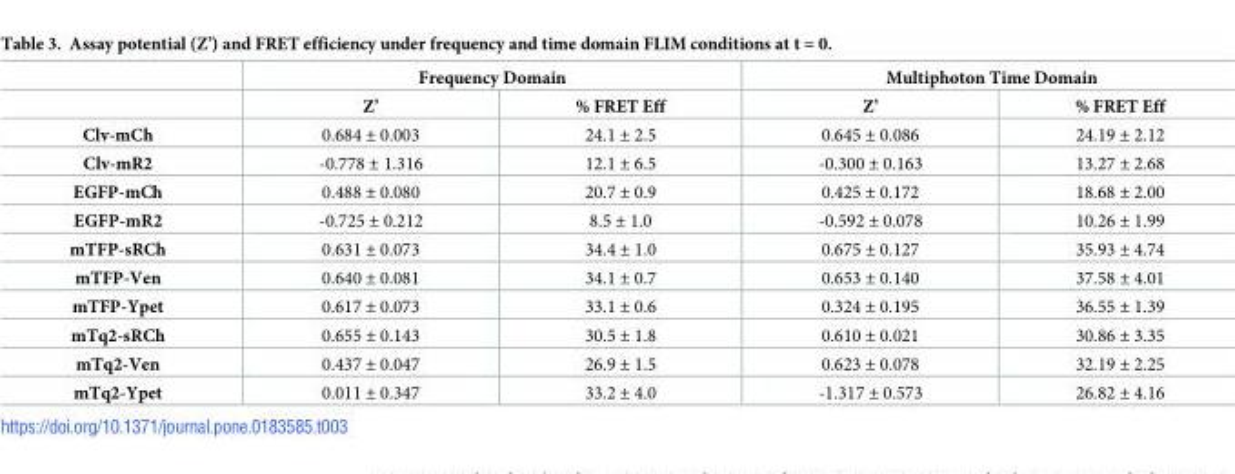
<table><thead><tr><td rowspan="2"></td><td colspan="2">Frequency Domain</td><td colspan="2">Multiphoton Time Domain</td></tr><tr><td>Z’</td><td>% FRET Eff</td><td>Z’</td><td>% FRET Eff</td></tr></thead><tbody><tr><td>Clv-mCh</td><td>0.684 ± 0.003</td><td>24.1 ± 2.5</td><td>0.645 ± 0.086</td><td>24.19 ± 2.12</td></tr><tr><td>Clv-mR2</td><td>-0.778 ± 1.316</td><td>12.1 ± 6.5</td><td>-0.300 ± 0.163</td><td>13.27 ± 2.68</td></tr><tr><td>EGFP-mCh</td><td>0.488 ± 0.080</td><td>20.7 ± 0.9</td><td>0.425 ± 0.172</td><td>18.68 ± 2.00</td></tr><tr><td>EGFP-mR2</td><td>-0.725 ± 0.212</td><td>8.5 ± 1.0</td><td>-0.592 ± 0.078</td><td>10.26 ± 1.99</td></tr><tr><td>mTFP-sRCh</td><td>0.631 ± 0.073</td><td>34.4 ± 1.0</td><td>0.675 ± 0.127</td><td>35.93 ± 4.74</td></tr><tr><td>mTFP-Ven</td><td>0.640 ± 0.081</td><td>34.1 ± 0.7</td><td>0.653 ± 0.140</td><td>37.58 ± 4.01</td></tr><tr><td>mTFP-Ypet</td><td>0.617 ± 0.073</td><td>33.1 ± 0.6</td><td>0.324 ± 0.195</td><td>36.55 ± 1.39</td></tr><tr><td>mTq2-sRCh</td><td>0.655 ± 0.143</td><td>30.5 ± 1.8</td><td>0.610 ± 0.021</td><td>30.86 ± 3.35</td></tr><tr><td>mTq2-Ven</td><td>0.437 ± 0.047</td><td>26.9 ± 1.5</td><td>0.623 ± 0.078</td><td>32.19 ± 2.25</td></tr><tr><td>mTq2-Ypet</td><td>0.011 ± 0.347</td><td>33.2 ± 4.0</td><td>-1.317 ± 0.573</td><td>26.82 ± 4.16</td></tr></tbody></table>